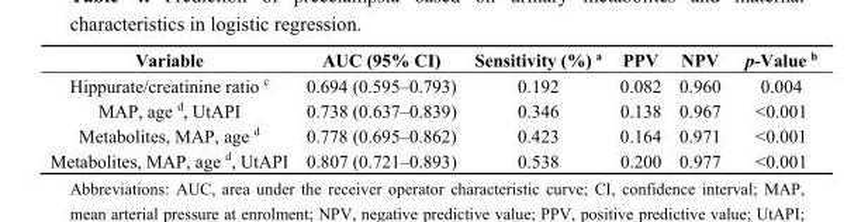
<table><thead><tr><td>Variable</td><td>AUC (95% CI)</td><td>Sensitivity (%) <sup>a</sup></td><td>PPV</td><td>NPV</td><td>p-Value <sup>b</sup></td></tr></thead><tbody><tr><td>Hippurate/creatinine ratio <sup>c</sup></td><td>0.694 (0.595–0.793)</td><td>0.192</td><td>0.082</td><td>0.960</td><td>0.004</td></tr><tr><td>MAP, age <sup>d</sup>, UtAPI</td><td>0.738 (0.637–0.839)</td><td>0.346</td><td>0.138</td><td>0.967</td><td>&lt;0.001</td></tr><tr><td>Metabolites, MAP, age <sup>d</sup></td><td>0.778 (0.695–0.862)</td><td>0.423</td><td>0.164</td><td>0.971</td><td>&lt;0.001</td></tr><tr><td>Metabolites, MAP, age <sup>d</sup>, UtAPI</td><td>0.807 (0.721–0.893)</td><td>0.538</td><td>0.200</td><td>0.977</td><td>&lt;0.001</td></tr></tbody></table>